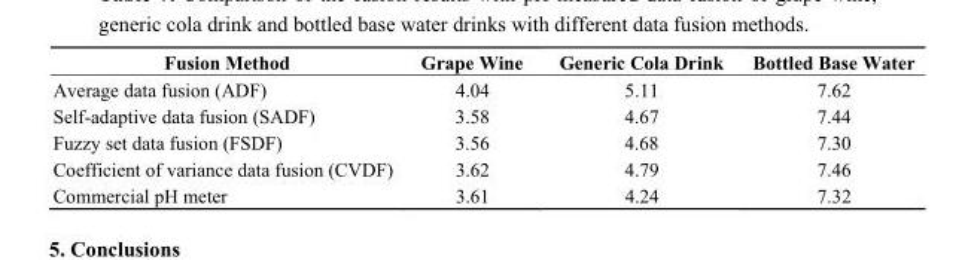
<table><thead><tr><td>Fusion Method</td><td>Grape Wine</td><td>Generic Cola Drink</td><td>Bottled Base Water</td></tr></thead><tbody><tr><td>Average data fusion (ADF)</td><td>4.04</td><td>5.11</td><td>7.62</td></tr><tr><td>Self-adaptive data fusion (SADF)</td><td>3.58</td><td>4.67</td><td>7.44</td></tr><tr><td>Fuzzy set data fusion (FSDF)</td><td>3.56</td><td>4.68</td><td>7.30</td></tr><tr><td>Coefficient of variance data fusion (CVDF)</td><td>3.62</td><td>4.79</td><td>7.46</td></tr><tr><td>Commercial pH meter</td><td>3.61</td><td>4.24</td><td>7.32</td></tr></tbody></table>